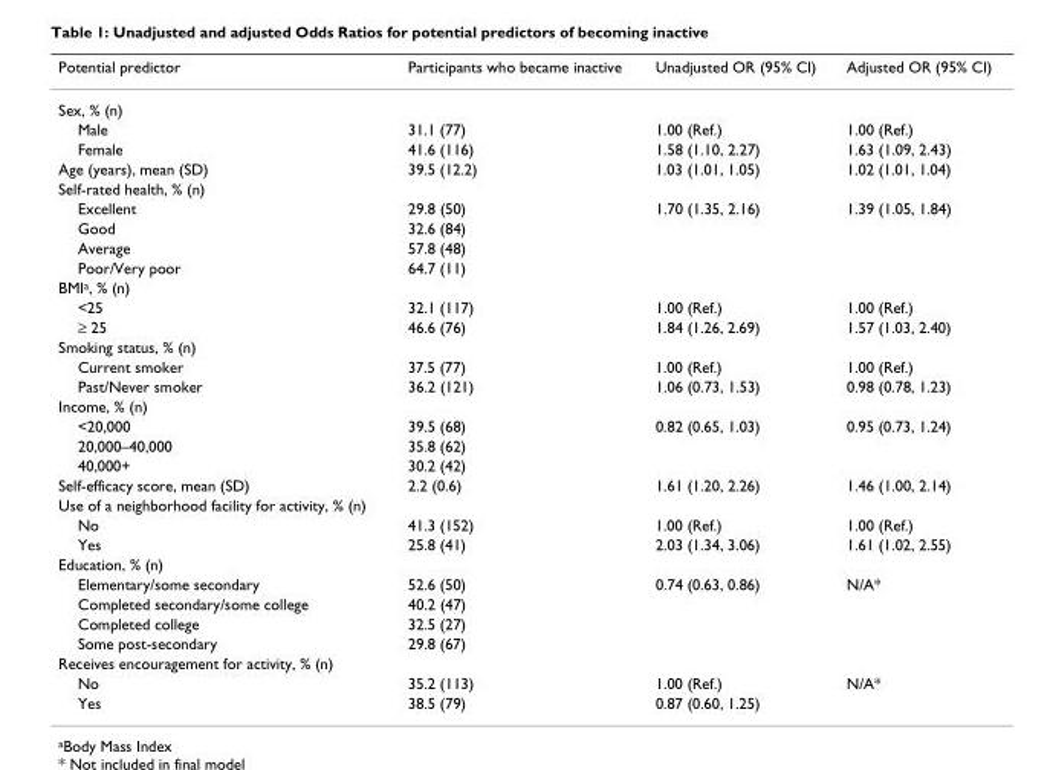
<table><thead><tr><td>Potential predictor</td><td>Participants who became inactive</td><td>Unadjusted OR (95% CI)</td><td>Adjusted OR (95% CI)</td></tr></thead><tbody><tr><td colspan="4">Sex, % (n)</td></tr><tr><td>Male</td><td>31.1 (77)</td><td>1.00 (Ref.)</td><td>1.00 (Ref.)</td></tr><tr><td>Female</td><td>41.6 (116)</td><td>1.58 (1.10, 2.27)</td><td>1.63 (1.09, 2.43)</td></tr><tr><td>Age (years), mean (SD)</td><td>39.5 (12.2)</td><td>1.03 (1.01, 1.05)</td><td>1.02 (1.01, 1.04)</td></tr><tr><td colspan="4">Self-rated health, % (n)</td></tr><tr><td>Excellent</td><td>29.8 (50)</td><td>1.70 (1.35, 2.16)</td><td>1.39 (1.05, 1.84)</td></tr><tr><td>Good</td><td>32.6 (84)</td><td></td><td></td></tr><tr><td>Average</td><td>57.8 (48)</td><td></td><td></td></tr><tr><td>Poor/Very poor</td><td>64.7 (11)</td><td></td><td></td></tr><tr><td colspan="4">BMI<sup>a</sup>, % (n)</td></tr><tr><td>&lt;25</td><td>32.1 (117)</td><td>1.00 (Ref.)</td><td>1.00 (Ref.)</td></tr><tr><td>≥ 25</td><td>46.6 (76)</td><td>1.84 (1.26, 2.69)</td><td>1.57 (1.03, 2.40)</td></tr><tr><td colspan="4">Smoking status, % (n)</td></tr><tr><td>Current smoker</td><td>37.5 (77)</td><td>1.00 (Ref.)</td><td>1.00 (Ref.)</td></tr><tr><td>Past/Never smoker</td><td>36.2 (121)</td><td>1.06 (0.73, 1.53)</td><td>0.98 (0.78, 1.23)</td></tr><tr><td colspan="4">Income, % (n)</td></tr><tr><td>&lt;20,000</td><td>39.5 (68)</td><td>0.82 (0.65, 1.03)</td><td>0.95 (0.73, 1.24)</td></tr><tr><td>20,000–40,000</td><td>35.8 (62)</td><td></td><td></td></tr><tr><td>40,000+</td><td>30.2 (42)</td><td></td><td></td></tr><tr><td>Self-efficacy score, mean (SD)</td><td>2.2 (0.6)</td><td>1.61 (1.20, 2.26)</td><td>1.46 (1.00, 2.14)</td></tr><tr><td colspan="4">Use of a neighborhood facility for activity, % (n)</td></tr><tr><td>No</td><td>41.3 (152)</td><td>1.00 (Ref.)</td><td>1.00 (Ref.)</td></tr><tr><td>Yes</td><td>25.8 (41)</td><td>2.03 (1.34, 3.06)</td><td>1.61 (1.02, 2.55)</td></tr><tr><td colspan="4">Education, % (n)</td></tr><tr><td>Elementary/some secondary</td><td>52.6 (50)</td><td>0.74 (0.63, 0.86)</td><td>N/A*</td></tr><tr><td>Completed secondary/some college</td><td>40.2 (47)</td><td></td><td></td></tr><tr><td>Completed college</td><td>32.5 (27)</td><td></td><td></td></tr><tr><td>Some post-secondary</td><td>29.8 (67)</td><td></td><td></td></tr><tr><td colspan="4">Receives encouragement for activity, % (n)</td></tr><tr><td>No</td><td>35.2 (113)</td><td>1.00 (Ref.)</td><td>N/A*</td></tr><tr><td>Yes</td><td>38.5 (79)</td><td>0.87 (0.60, 1.25)</td><td></td></tr></tbody></table>